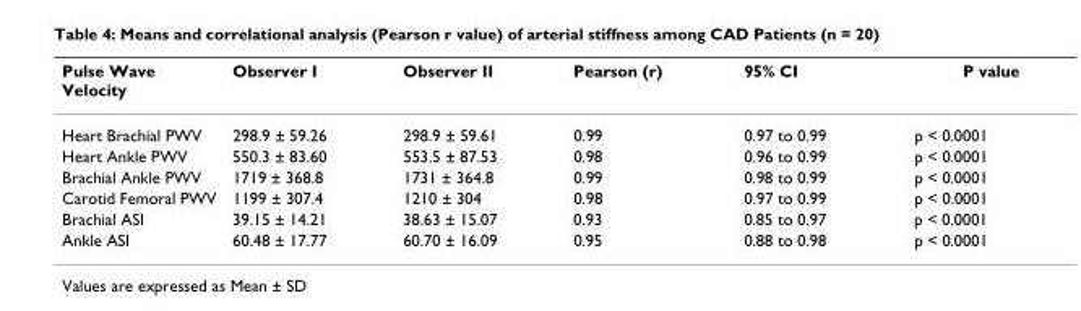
<table><thead><tr><td>Pulse Wave Velocity</td><td>Observer I</td><td>Observer II</td><td>Pearson (r)</td><td>95% CI</td><td>P value</td></tr></thead><tbody><tr><td>Heart Brachial PWV</td><td>298.9 ± 59.26</td><td>298.9 ± 59.61</td><td>0.99</td><td>0.97 to 0.99</td><td>p &lt; 0.0001</td></tr><tr><td>Heart Ankle PWV</td><td>550.3 ± 83.60</td><td>553.5 ± 87.53</td><td>0.98</td><td>0.96 to 0.99</td><td>p &lt; 0.0001</td></tr><tr><td>Brachial Ankle PWV</td><td>1719 ± 368.8</td><td>1731 ± 364.8</td><td>0.99</td><td>0.98 to 0.99</td><td>p &lt; 0.0001</td></tr><tr><td>Carotid Femoral PWV</td><td>1199 ± 307.4</td><td>1210 ± 304</td><td>0.98</td><td>0.97 to 0.99</td><td>p &lt; 0.0001</td></tr><tr><td>Brachial ASI</td><td>39.15 ± 14.21</td><td>38.63 ± 15.07</td><td>0.93</td><td>0.85 to 0.97</td><td>p &lt; 0.0001</td></tr><tr><td>Ankle ASI</td><td>60.48 ± 17.77</td><td>60.70 ± 16.09</td><td>0.95</td><td>0.88 to 0.98</td><td>p &lt; 0.0001</td></tr></tbody></table>